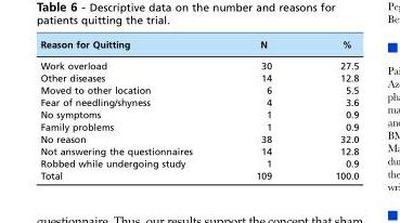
<table><thead><tr><td>Reason for Quitting</td><td>N</td><td>%</td></tr></thead><tbody><tr><td>Work overload</td><td>30</td><td>27.5</td></tr><tr><td>Other diseases</td><td>14</td><td>12.8</td></tr><tr><td>Moved to other location</td><td>6</td><td>5.5</td></tr><tr><td>Fear of needling/shyness</td><td>4</td><td>3.6</td></tr><tr><td>No symptoms</td><td>1</td><td>0.9</td></tr><tr><td>Family problems</td><td>1</td><td>0.9</td></tr><tr><td>No reason</td><td>38</td><td>32.0</td></tr><tr><td>Not answering the questionnaires</td><td>14</td><td>12.8</td></tr><tr><td>Robbed while undergoing study</td><td>1</td><td>0.9</td></tr><tr><td>Total</td><td>109</td><td>100.0</td></tr></tbody></table>